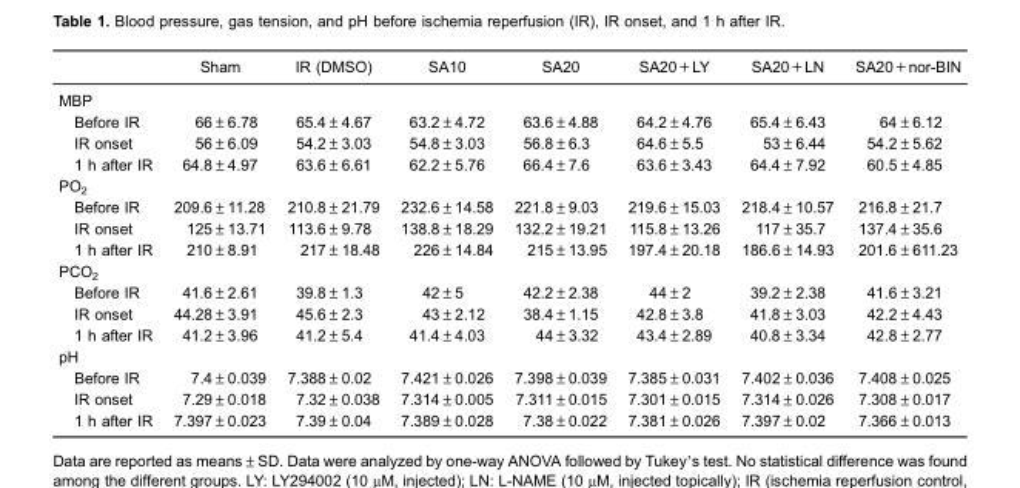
<table><thead><tr><td></td><td>Sham</td><td>IR (DMSO)</td><td>SA10</td><td>SA20</td><td>SA20+LY</td><td>SA20+LN</td><td>SA20+nor-BIN</td></tr></thead><tbody><tr><td colspan="8">MBP</td></tr><tr><td>Before IR</td><td>66±6.78</td><td>65.4±4.67</td><td>63.2±4.72</td><td>63.6±4.88</td><td>64.2±4.76</td><td>65.4±6.43</td><td>64±6.12</td></tr><tr><td>IR onset</td><td>56±6.09</td><td>54.2±3.03</td><td>54.8±3.03</td><td>56.8±6.3</td><td>64.6±5.5</td><td>53±6.44</td><td>54.2±5.62</td></tr><tr><td>1 h after IR</td><td>64.8±4.97</td><td>63.6±6.61</td><td>62.2±5.76</td><td>66.4±7.6</td><td>63.6±3.43</td><td>64.4±7.92</td><td>60.5±4.85</td></tr><tr><td colspan="8">PO<sub>2</sub></td></tr><tr><td>Before IR</td><td>209.6±11.28</td><td>210.8±21.79</td><td>232.6±14.58</td><td>221.8±9.03</td><td>219.6±15.03</td><td>218.4±10.57</td><td>216.8±21.7</td></tr><tr><td>IR onset</td><td>125±13.71</td><td>113.6±9.78</td><td>138.8±18.29</td><td>132.2±19.21</td><td>115.8±13.26</td><td>117±35.7</td><td>137.4±35.6</td></tr><tr><td>1 h after IR</td><td>210±8.91</td><td>217±18.48</td><td>226±14.84</td><td>215±13.95</td><td>197.4±20.18</td><td>186.6±14.93</td><td>201.6±611.23</td></tr><tr><td colspan="8">PCO<sub>2</sub></td></tr><tr><td>Before IR</td><td>41.6±2.61</td><td>39.8±1.3</td><td>42±5</td><td>42.2±2.38</td><td>44±2</td><td>39.2±2.38</td><td>41.6±3.21</td></tr><tr><td>IR onset</td><td>44.28±3.91</td><td>45.6±2.3</td><td>43±2.12</td><td>38.4±1.15</td><td>42.8±3.8</td><td>41.8±3.03</td><td>42.2±4.43</td></tr><tr><td>1 h after IR</td><td>41.2±3.96</td><td>41.2±5.4</td><td>41.4±4.03</td><td>44±3.32</td><td>43.4±2.89</td><td>40.8±3.34</td><td>42.8±2.77</td></tr><tr><td colspan="8">pH</td></tr><tr><td>Before IR</td><td>7.4±0.039</td><td>7.388±0.02</td><td>7.421±0.026</td><td>7.398±0.039</td><td>7.385±0.031</td><td>7.402±0.036</td><td>7.408±0.025</td></tr><tr><td>IR onset</td><td>7.29±0.018</td><td>7.32±0.038</td><td>7.314±0.005</td><td>7.311±0.015</td><td>7.301±0.015</td><td>7.314±0.026</td><td>7.308±0.017</td></tr><tr><td>1 h after IR</td><td>7.397±0.023</td><td>7.39±0.04</td><td>7.389±0.028</td><td>7.38±0.022</td><td>7.381±0.026</td><td>7.397±0.02</td><td>7.366±0.013</td></tr></tbody></table>